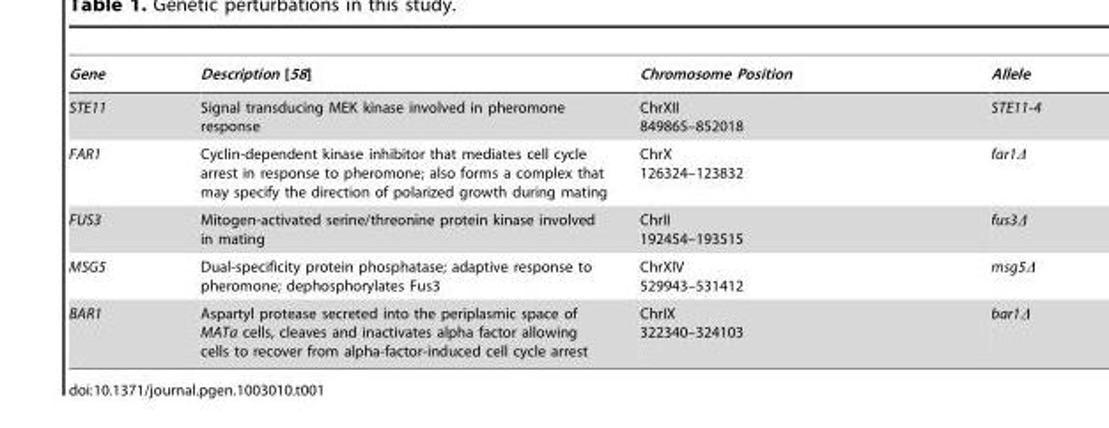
<table><thead><tr><td>Gene</td><td>Description [58]</td><td>Chromosome Position</td><td>Allele</td></tr></thead><tbody><tr><td>STE11</td><td>Signal transducing MEK kinase involved in pheromone response</td><td>ChrXII 849865–852018</td><td>STE11-4</td></tr><tr><td>FAR1</td><td>Cyclin-dependent kinase inhibitor that mediates cell cycle arrest in response to pheromone; also forms a complex that may specify the direction of polarized growth during mating</td><td>ChrX 126324–123832</td><td>far1Δ</td></tr><tr><td>FUS3</td><td>Mitogen-activated serine/threonine protein kinase involved in mating</td><td>ChrII 192454–193515</td><td>fus3Δ</td></tr><tr><td>MSG5</td><td>Dual-specificity protein phosphatase; adaptive response to pheromone; dephosphorylates Fus3</td><td>ChrXIV 529943–531412</td><td>msg5Δ</td></tr><tr><td>BAR1</td><td>Aspartyl protease secreted into the periplasmic space of MATa cells, cleaves and inactivates alpha factor allowing cells to recover from alpha-factor-induced cell cycle arrest</td><td>ChrIX 322340–324103</td><td>bar1Δ</td></tr></tbody></table>